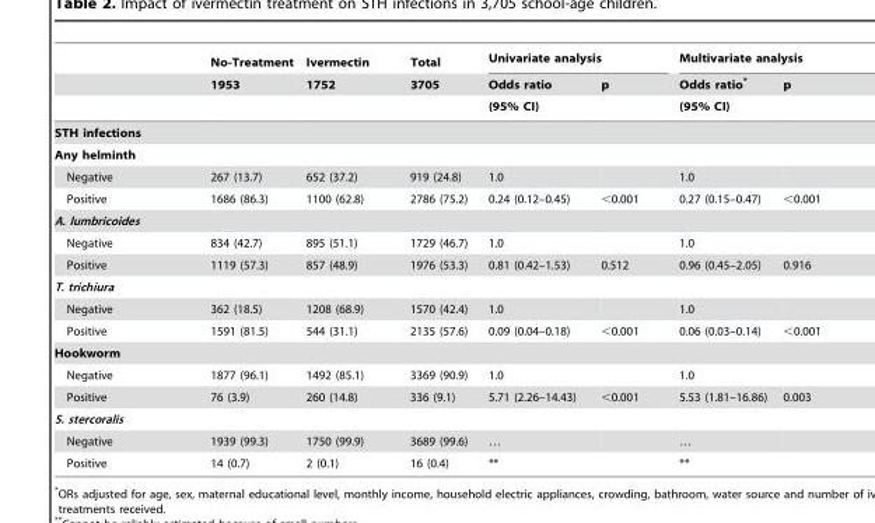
<table><thead><tr><td rowspan="3"></td><td rowspan="3">No-Treatment 1953</td><td rowspan="3">Ivermectin 1752</td><td rowspan="3">Total 3705</td><td colspan="2">Univariate analysis</td><td colspan="2">Multivariate analysis</td></tr><tr><td rowspan="2">Odds ratio (95% CI)</td><td rowspan="2">p</td><td rowspan="2">Odds ratio* (95% CI)</td><td rowspan="2">p</td></tr><tr></tr></thead><tbody><tr><td colspan="8">STH infections</td></tr><tr><td colspan="8">Any helminth</td></tr><tr><td>Negative</td><td>267 (13.7)</td><td>652 (37.2)</td><td>919 (24.8)</td><td>1.0</td><td></td><td>1.0</td><td></td></tr><tr><td>Positive</td><td>1686 (86.3)</td><td>1100 (62.8)</td><td>2786 (75.2)</td><td>0.24 (0.12–0.45)</td><td>&lt;0.001</td><td>0.27 (0.15–0.47)</td><td>&lt;0.001</td></tr><tr><td colspan="8">A. lumbricoides</td></tr><tr><td>Negative</td><td>834 (42.7)</td><td>895 (51.1)</td><td>1729 (46.7)</td><td>1.0</td><td></td><td>1.0</td><td></td></tr><tr><td>Positive</td><td>1119 (57.3)</td><td>857 (48.9)</td><td>1976 (53.3)</td><td>0.81 (0.42–1.53)</td><td>0.512</td><td>0.96 (0.45–2.05)</td><td>0.916</td></tr><tr><td colspan="8">T. trichiura</td></tr><tr><td>Negative</td><td>362 (18.5)</td><td>1208 (68.9)</td><td>1570 (42.4)</td><td>1.0</td><td></td><td>1.0</td><td></td></tr><tr><td>Positive</td><td>1591 (81.5)</td><td>544 (31.1)</td><td>2135 (57.6)</td><td>0.09 (0.04–0.18)</td><td>&lt;0.001</td><td>0.06 (0.03–0.14)</td><td>&lt;0.001</td></tr><tr><td colspan="8">Hookworm</td></tr><tr><td>Negative</td><td>1877 (96.1)</td><td>1492 (85.1)</td><td>3369 (90.9)</td><td>1.0</td><td></td><td>1.0</td><td></td></tr><tr><td>Positive</td><td>76 (3.9)</td><td>260 (14.8)</td><td>336 (9.1)</td><td>5.71 (2.26–14.43)</td><td>&lt;0.001</td><td>5.53 (1.81–16.86)</td><td>0.003</td></tr><tr><td colspan="8">S. stercoralis</td></tr><tr><td>Negative</td><td>1939 (99.3)</td><td>1750 (99.9)</td><td>3689 (99.6)</td><td>…</td><td></td><td>…</td><td></td></tr><tr><td>Positive</td><td>14 (0.7)</td><td>2 (0.1)</td><td>16 (0.4)</td><td>**</td><td></td><td>**</td><td></td></tr></tbody></table>